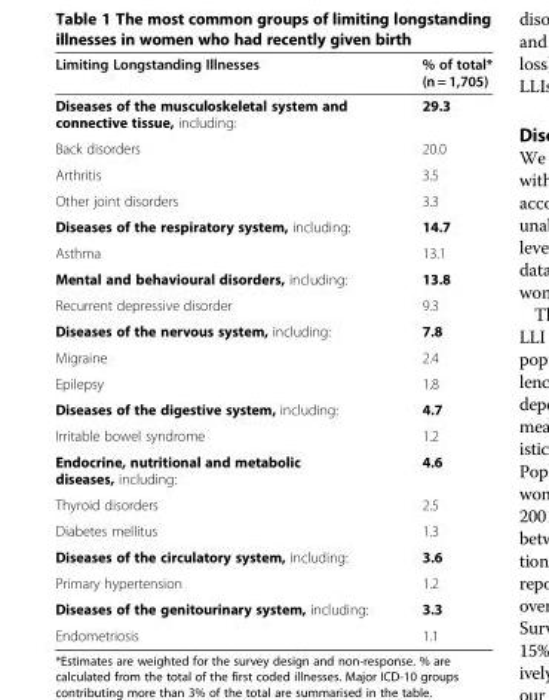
<table><thead><tr><td>Limiting Longstanding Illnesses</td><td>% of total* (n = 1,705)</td></tr></thead><tbody><tr><td>Diseases of the musculoskeletal system and connective tissue, including:</td><td>29.3</td></tr><tr><td>Back disorders</td><td>20.0</td></tr><tr><td>Arthritis</td><td>3.5</td></tr><tr><td>Other joint disorders</td><td>3.3</td></tr><tr><td>Diseases of the respiratory system, including:</td><td>14.7</td></tr><tr><td>Asthma</td><td>13.1</td></tr><tr><td>Mental and behavioural disorders, including:</td><td>13.8</td></tr><tr><td>Recurrent depressive disorder</td><td>9.3</td></tr><tr><td>Diseases of the nervous system, including:</td><td>7.8</td></tr><tr><td>Migraine</td><td>2.4</td></tr><tr><td>Epilepsy</td><td>1.8</td></tr><tr><td>Diseases of the digestive system, including:</td><td>4.7</td></tr><tr><td>Irritable bowel syndrome</td><td>1.2</td></tr><tr><td>Endocrine, nutritional and metabolic diseases, including:</td><td>4.6</td></tr><tr><td>Thyroid disorders</td><td>2.5</td></tr><tr><td>Diabetes mellitus</td><td>1.3</td></tr><tr><td>Diseases of the circulatory system, including:</td><td>3.6</td></tr><tr><td>Primary hypertension</td><td>1.2</td></tr><tr><td>Diseases of the genitourinary system, including:</td><td>3.3</td></tr><tr><td>Endometriosis</td><td>1.1</td></tr></tbody></table>